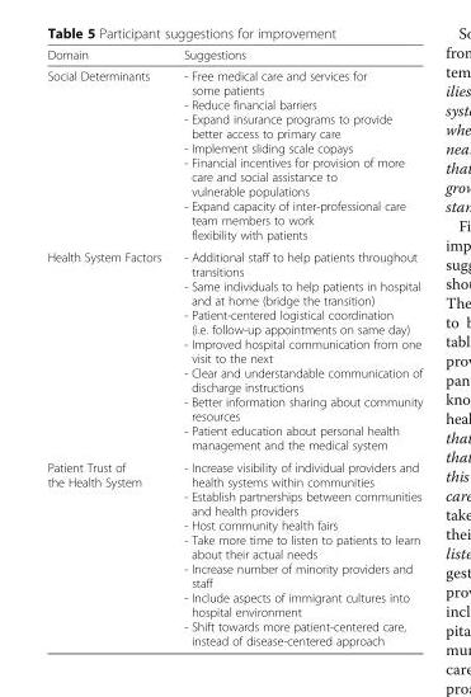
<table><thead><tr><td>Domain</td><td>Suggestions</td></tr></thead><tbody><tr><td>Social Determinants</td><td>- Free medical care and services for some patients - Reduce financial barriers - Expand insurance programs to provide better access to primary care - Implement sliding scale copays - Financial incentives for provision of more care and social assistance to vulnerable populations - Expand capacity of inter-professional care team members to work flexibility with patients</td></tr><tr><td>Health System Factors</td><td>- Additional staff to help patients throughout transitions - Same individuals to help patients in hospital and at home (bridge the transition) - Patient-centered logistical coordination (i.e. follow-up appointments on same day) - Improved hospital communication from one visit to the next - Clear and understandable communication of discharge instructions - Better information sharing about community resources - Patient education about personal health management and the medical system</td></tr><tr><td>Patient Trust of the Health System</td><td>- Increase visibility of individual providers and health systems within communities - Establish partnerships between communities and health providers - Host community health fairs - Take more time to listen to patients to learn about their actual needs - Increase number of minority providers and staff - Include aspects of immigrant cultures into hospital environment - Shift towards more patient-centered care, instead of disease-centered approach</td></tr></tbody></table>